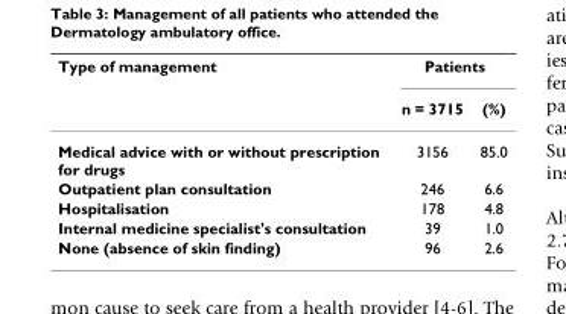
<table><thead><tr><td rowspan="2">Type of management</td><td colspan="2">Patients</td></tr><tr><td>n = 3715</td><td>(%)</td></tr></thead><tbody><tr><td>Medical advice with or without prescription for drugs</td><td>3156</td><td>85.0</td></tr><tr><td>Outpatient plan consultation</td><td>246</td><td>6.6</td></tr><tr><td>Hospitalisation</td><td>178</td><td>4.8</td></tr><tr><td>Internal medicine specialist&#x27;s consultation</td><td>39</td><td>1.0</td></tr><tr><td>None (absence of skin finding)</td><td>96</td><td>2.6</td></tr></tbody></table>